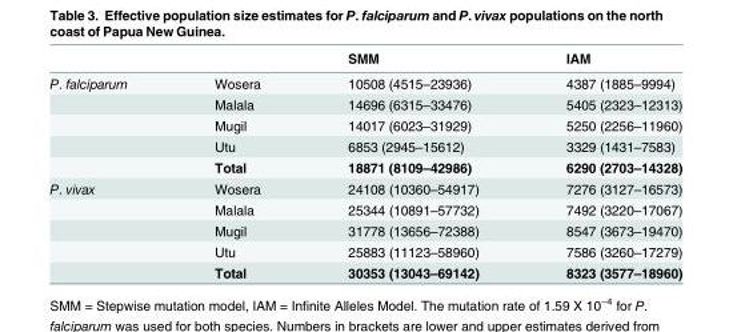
<table><thead><tr><td></td><td></td><td>SMM</td><td>IAM</td></tr></thead><tbody><tr><td rowspan="5">P. falciparum</td><td>Wosera</td><td>10508 (4515–23936)</td><td>4387 (1885–9994)</td></tr><tr><td>Malala</td><td>14696 (6315–33476)</td><td>5405 (2323–12313)</td></tr><tr><td>Mugil</td><td>14017 (6023–31929)</td><td>5250 (2256–11960)</td></tr><tr><td>Utu</td><td>6853 (2945–15612)</td><td>3329 (1431–7583)</td></tr><tr><td>Total</td><td>18871 (8109–42986)</td><td>6290 (2703–14328)</td></tr><tr><td rowspan="5">P. vivax</td><td>Wosera</td><td>24108 (10360–54917)</td><td>7276 (3127–16573)</td></tr><tr><td>Malala</td><td>25344 (10891–57732)</td><td>7492 (3220–17067)</td></tr><tr><td>Mugil</td><td>31778 (13656–72388)</td><td>8547 (3673–19470)</td></tr><tr><td>Utu</td><td>25883 (11123–58960)</td><td>7586 (3260–17279)</td></tr><tr><td>Total</td><td>30353 (13043–69142)</td><td>8323 (3577–18960)</td></tr></tbody></table>